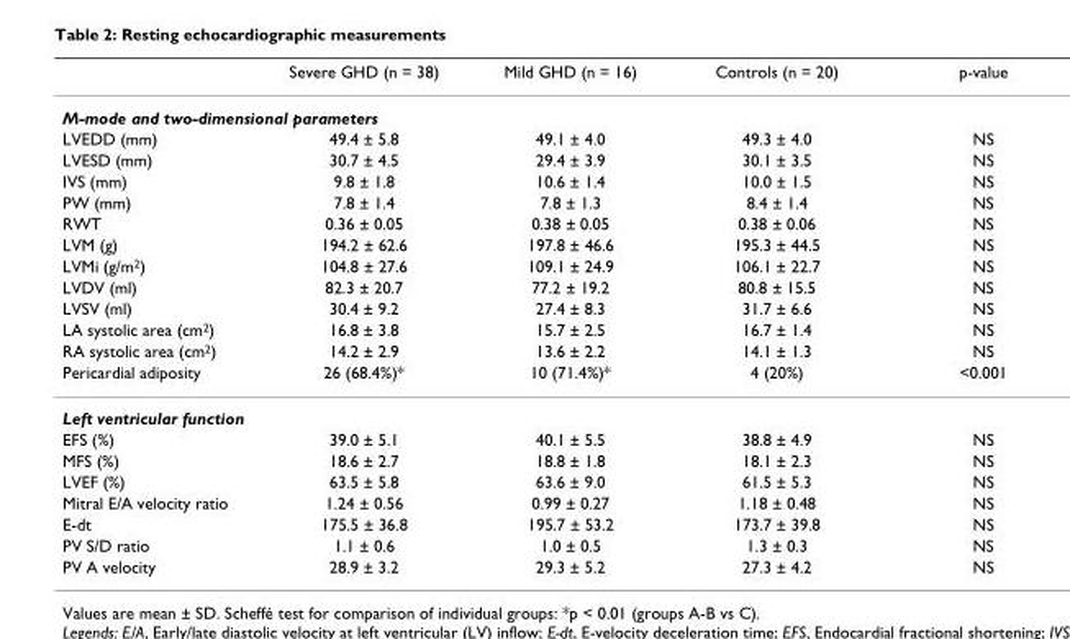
<table><thead><tr><td></td><td>Severe GHD (n = 38)</td><td>Mild GHD (n = 16)</td><td>Controls (n = 20)</td><td>p-value</td></tr></thead><tbody><tr><td colspan="5">M-mode and two-dimensional parameters</td></tr><tr><td>LVEDD (mm)</td><td>49.4 ± 5.8</td><td>49.1 ± 4.0</td><td>49.3 ± 4.0</td><td>NS</td></tr><tr><td>LVESD (mm)</td><td>30.7 ± 4.5</td><td>29.4 ± 3.9</td><td>30.1 ± 3.5</td><td>NS</td></tr><tr><td>IVS (mm)</td><td>9.8 ± 1.8</td><td>10.6 ± 1.4</td><td>10.0 ± 1.5</td><td>NS</td></tr><tr><td>PW (mm)</td><td>7.8 ± 1.4</td><td>7.8 ± 1.3</td><td>8.4 ± 1.4</td><td>NS</td></tr><tr><td>RWT</td><td>0.36 ± 0.05</td><td>0.38 ± 0.05</td><td>0.38 ± 0.06</td><td>NS</td></tr><tr><td>LVM (g)</td><td>194.2 ± 62.6</td><td>197.8 ± 46.6</td><td>195.3 ± 44.5</td><td>NS</td></tr><tr><td>LVMi (g/m<sup>2</sup>)</td><td>104.8 ± 27.6</td><td>109.1 ± 24.9</td><td>106.1 ± 22.7</td><td>NS</td></tr><tr><td>LVDV (ml)</td><td>82.3 ± 20.7</td><td>77.2 ± 19.2</td><td>80.8 ± 15.5</td><td>NS</td></tr><tr><td>LVSV (ml)</td><td>30.4 ± 9.2</td><td>27.4 ± 8.3</td><td>31.7 ± 6.6</td><td>NS</td></tr><tr><td>LA systolic area (cm<sup>2</sup>)</td><td>16.8 ± 3.8</td><td>15.7 ± 2.5</td><td>16.7 ± 1.4</td><td>NS</td></tr><tr><td>RA systolic area (cm<sup>2</sup>)</td><td>14.2 ± 2.9</td><td>13.6 ± 2.2</td><td>14.1 ± 1.3</td><td>NS</td></tr><tr><td>Pericardial adiposity</td><td>26 (68.4%)*</td><td>10 (71.4%)*</td><td>4 (20%)</td><td>&lt;0.001</td></tr><tr><td colspan="5">Left ventricular function</td></tr><tr><td>EFS (%)</td><td>39.0 ± 5.1</td><td>40.1 ± 5.5</td><td>38.8 ± 4.9</td><td>NS</td></tr><tr><td>MFS (%)</td><td>18.6 ± 2.7</td><td>18.8 ± 1.8</td><td>18.1 ± 2.3</td><td>NS</td></tr><tr><td>LVEF (%)</td><td>63.5 ± 5.8</td><td>63.6 ± 9.0</td><td>61.5 ± 5.3</td><td>NS</td></tr><tr><td>Mitral E/A velocity ratio</td><td>1.24 ± 0.56</td><td>0.99 ± 0.27</td><td>1.18 ± 0.48</td><td>NS</td></tr><tr><td>E-dt</td><td>175.5 ± 36.8</td><td>195.7 ± 53.2</td><td>173.7 ± 39.8</td><td>NS</td></tr><tr><td>PV S/D ratio</td><td>1.1 ± 0.6</td><td>1.0 ± 0.5</td><td>1.3 ± 0.3</td><td>NS</td></tr><tr><td>PV A velocity</td><td>28.9 ± 3.2</td><td>29.3 ± 5.2</td><td>27.3 ± 4.2</td><td>NS</td></tr></tbody></table>